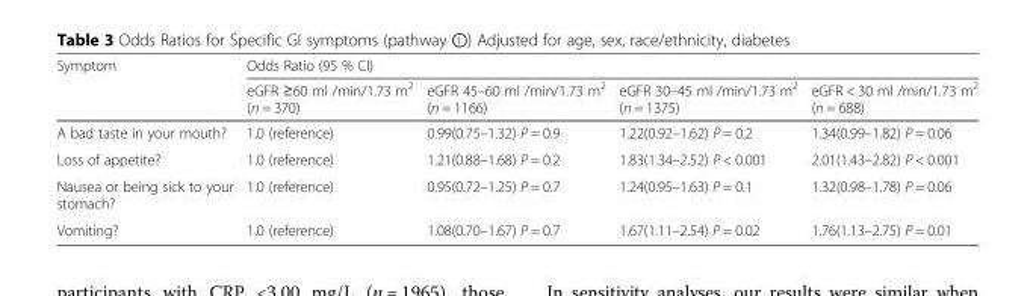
<table><thead><tr><td rowspan="2">Symptom</td><td colspan="4">Odds Ratio (95 % CI)</td></tr><tr><td>eGFR ≥60 ml /min/1.73 m<sup>2</sup> (n = 370)</td><td>eGFR 45–60 ml /min/1.73 m<sup>2</sup> (n = 1166)</td><td>eGFR 30–45 ml /min/1.73 m<sup>2</sup> (n = 1375)</td><td>eGFR &lt; 30 ml /min/1.73 m<sup>2</sup> (n = 688)</td></tr></thead><tbody><tr><td>A bad taste in your mouth?</td><td>1.0 (reference)</td><td>0.99(0.75–1.32) P = 0.9</td><td>1.22(0.92–1.62) P = 0.2</td><td>1.34(0.99–1.82) P = 0.06</td></tr><tr><td>Loss of appetite?</td><td>1.0 (reference)</td><td>1.21(0.88–1.68) P = 0.2</td><td>1.83(1.34–2.52) P &lt; 0.001</td><td>2.01(1.43–2.82) P &lt; 0.001</td></tr><tr><td>Nausea or being sick to your stomach?</td><td>1.0 (reference)</td><td>0.95(0.72–1.25) P = 0.7</td><td>1.24(0.95–1.63) P = 0.1</td><td>1.32(0.98–1.78) P = 0.06</td></tr><tr><td>Vomiting?</td><td>1.0 (reference)</td><td>1.08(0.70–1.67) P = 0.7</td><td>1.67(1.11–2.54) P = 0.02</td><td>1.76(1.13–2.75) P = 0.01</td></tr></tbody></table>